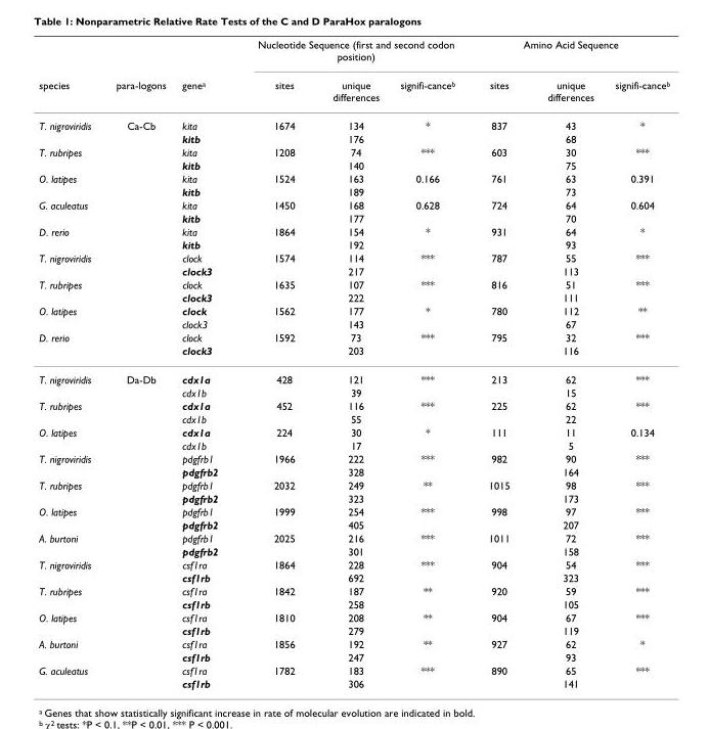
<table><thead><tr><td rowspan="2">species</td><td rowspan="2">para-logons</td><td rowspan="2">gene<sup>a</sup></td><td colspan="3">Nucleotide Sequence (first and second codon position)</td><td colspan="3">Amino Acid Sequence</td></tr><tr><td>sites</td><td>unique differences</td><td>signifi-cance<sup>b</sup></td><td>sites</td><td>unique differences</td><td>signifi-cance<sup>b</sup></td></tr></thead><tbody><tr><td rowspan="2">T. nigroviridis</td><td>Ca-Cb</td><td>kita</td><td>1674</td><td>134</td><td>*</td><td>837</td><td>43</td><td>*</td></tr><tr><td></td><td>kitb</td><td></td><td>176</td><td></td><td></td><td>68</td><td></td></tr><tr><td rowspan="2">T. rubripes</td><td></td><td>kita</td><td>1208</td><td>74</td><td>***</td><td>603</td><td>30</td><td>***</td></tr><tr><td></td><td>kitb</td><td></td><td>140</td><td></td><td></td><td>75</td><td></td></tr><tr><td rowspan="2">O. latipes</td><td></td><td>kita</td><td>1524</td><td>163</td><td>0.166</td><td>761</td><td>63</td><td>0.391</td></tr><tr><td></td><td>kitb</td><td></td><td>189</td><td></td><td></td><td>73</td><td></td></tr><tr><td rowspan="2">G. aculeatus</td><td></td><td>kita</td><td>1450</td><td>168</td><td>0.628</td><td>724</td><td>64</td><td>0.604</td></tr><tr><td></td><td>kitb</td><td></td><td>177</td><td></td><td></td><td>70</td><td></td></tr><tr><td rowspan="2">D. rerio</td><td></td><td>kita</td><td>1864</td><td>154</td><td>*</td><td>931</td><td>64</td><td>*</td></tr><tr><td></td><td>kitb</td><td></td><td>192</td><td></td><td></td><td>93</td><td></td></tr><tr><td rowspan="2">T. nigroviridis</td><td></td><td>clock</td><td>1574</td><td>114</td><td>***</td><td>787</td><td>55</td><td>***</td></tr><tr><td></td><td>clock3</td><td></td><td>217</td><td></td><td></td><td>113</td><td></td></tr><tr><td rowspan="2">T. rubripes</td><td></td><td>clock</td><td>1635</td><td>107</td><td>***</td><td>816</td><td>51</td><td>***</td></tr><tr><td></td><td>clock3</td><td></td><td>222</td><td></td><td></td><td>111</td><td></td></tr><tr><td rowspan="2">O. latipes</td><td></td><td>clock</td><td>1562</td><td>177</td><td>*</td><td>780</td><td>112</td><td>**</td></tr><tr><td></td><td>clock3</td><td></td><td>143</td><td></td><td></td><td>67</td><td></td></tr><tr><td rowspan="2">D. rerio</td><td></td><td>clock</td><td>1592</td><td>73</td><td>***</td><td>795</td><td>32</td><td>***</td></tr><tr><td></td><td>clock3</td><td></td><td>203</td><td></td><td></td><td>116</td><td></td></tr><tr><td rowspan="2">T. nigroviridis</td><td>Da-Db</td><td>cdx1a</td><td>428</td><td>121</td><td>***</td><td>213</td><td>62</td><td>***</td></tr><tr><td></td><td>cdx1b</td><td></td><td>39</td><td></td><td></td><td>15</td><td></td></tr><tr><td rowspan="2">T. rubripes</td><td></td><td>cdx1a</td><td>452</td><td>116</td><td>***</td><td>225</td><td>62</td><td>***</td></tr><tr><td></td><td>cdx1b</td><td></td><td>55</td><td></td><td></td><td>22</td><td></td></tr><tr><td rowspan="2">O. latipes</td><td></td><td>cdx1a</td><td>224</td><td>30</td><td>*</td><td>111</td><td>11</td><td>0.134</td></tr><tr><td></td><td>cdx1b</td><td></td><td>17</td><td></td><td></td><td>5</td><td></td></tr><tr><td rowspan="2">T. nigroviridis</td><td></td><td>pdgfrb1</td><td>1966</td><td>222</td><td>***</td><td>982</td><td>90</td><td>***</td></tr><tr><td></td><td>pdgfrb2</td><td></td><td>328</td><td></td><td></td><td>164</td><td></td></tr><tr><td rowspan="2">T. rubripes</td><td></td><td>pdgfrb1</td><td>2032</td><td>249</td><td>**</td><td>1015</td><td>98</td><td>***</td></tr><tr><td></td><td>pdgfrb2</td><td></td><td>323</td><td></td><td></td><td>173</td><td></td></tr><tr><td rowspan="2">O. latipes</td><td></td><td>pdgfrb1</td><td>1999</td><td>254</td><td>***</td><td>998</td><td>97</td><td>***</td></tr><tr><td></td><td>pdgfrb2</td><td></td><td>405</td><td></td><td></td><td>207</td><td></td></tr><tr><td rowspan="2">A. burtoni</td><td></td><td>pdgfrb1</td><td>2025</td><td>216</td><td>***</td><td>1011</td><td>72</td><td>***</td></tr><tr><td></td><td>pdgfrb2</td><td></td><td>301</td><td></td><td></td><td>158</td><td></td></tr><tr><td rowspan="2">T. nigroviridis</td><td></td><td>csf1ra</td><td>1864</td><td>228</td><td>***</td><td>904</td><td>54</td><td>***</td></tr><tr><td></td><td>csf1rb</td><td></td><td>692</td><td></td><td></td><td>323</td><td></td></tr><tr><td rowspan="2">T. rubripes</td><td></td><td>csf1ra</td><td>1842</td><td>187</td><td>**</td><td>920</td><td>59</td><td>***</td></tr><tr><td></td><td>csf1rb</td><td></td><td>258</td><td></td><td></td><td>105</td><td></td></tr><tr><td rowspan="2">O. latipes</td><td></td><td>csf1ra</td><td>1810</td><td>208</td><td>**</td><td>904</td><td>67</td><td>***</td></tr><tr><td></td><td>csf1rb</td><td></td><td>279</td><td></td><td></td><td>119</td><td></td></tr><tr><td rowspan="2">A. burtoni</td><td></td><td>csf1ra</td><td>1856</td><td>192</td><td>**</td><td>927</td><td>62</td><td>*</td></tr><tr><td></td><td>csf1rb</td><td></td><td>247</td><td></td><td></td><td>93</td><td></td></tr><tr><td rowspan="2">G. aculeatus</td><td></td><td>csf1ra</td><td>1782</td><td>183</td><td>***</td><td>890</td><td>65</td><td>***</td></tr><tr><td></td><td>csf1rb</td><td></td><td>306</td><td></td><td></td><td>141</td><td></td></tr></tbody></table>